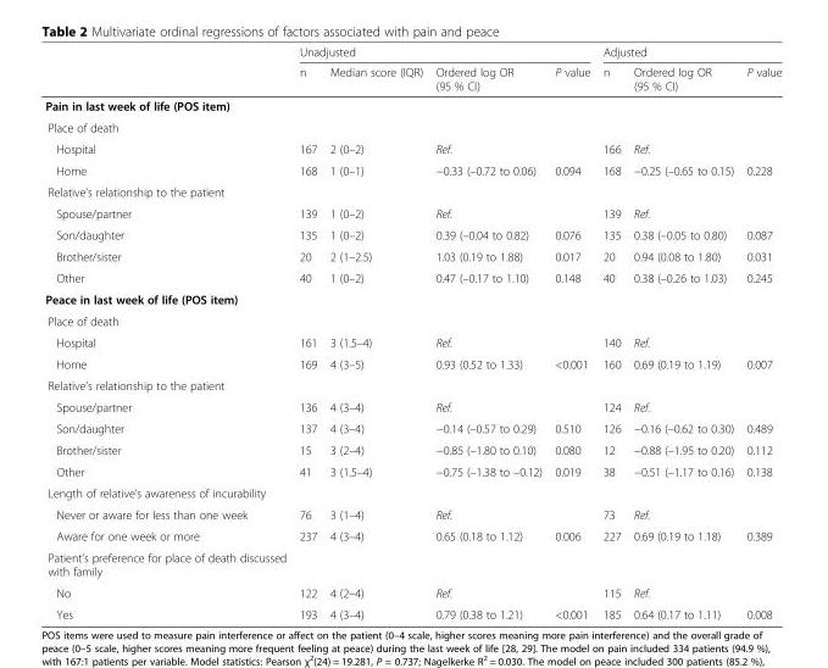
<table><thead><tr><td rowspan="2"></td><td colspan="4">Unadjusted</td><td colspan="3">Adjusted</td></tr><tr><td>n</td><td>Median score (IQR)</td><td>Ordered log OR (95 % CI)</td><td>P value</td><td>n</td><td>Ordered log OR (95 % CI)</td><td>P value</td></tr></thead><tbody><tr><td colspan="8">Pain in last week of life (POS item)</td></tr><tr><td colspan="8">Place of death</td></tr><tr><td>Hospital</td><td>167</td><td>2 (0–2)</td><td>Ref.</td><td></td><td>166</td><td>Ref.</td><td></td></tr><tr><td>Home</td><td>168</td><td>1 (0–1)</td><td>−0.33 (–0.72 to 0.06)</td><td>0.094</td><td>168</td><td>−0.25 (–0.65 to 0.15)</td><td>0.228</td></tr><tr><td colspan="8">Relative’s relationship to the patient</td></tr><tr><td>Spouse/partner</td><td>139</td><td>1 (0–2)</td><td>Ref.</td><td></td><td>139</td><td>Ref.</td><td></td></tr><tr><td>Son/daughter</td><td>135</td><td>1 (0–2)</td><td>0.39 (–0.04 to 0.82)</td><td>0.076</td><td>135</td><td>0.38 (–0.05 to 0.80)</td><td>0.087</td></tr><tr><td>Brother/sister</td><td>20</td><td>2 (1–2.5)</td><td>1.03 (0.19 to 1.88)</td><td>0.017</td><td>20</td><td>0.94 (0.08 to 1.80)</td><td>0.031</td></tr><tr><td>Other</td><td>40</td><td>1 (0–2)</td><td>0.47 (–0.17 to 1.10)</td><td>0.148</td><td>40</td><td>0.38 (–0.26 to 1.03)</td><td>0.245</td></tr><tr><td colspan="8">Peace in last week of life (POS item)</td></tr><tr><td colspan="8">Place of death</td></tr><tr><td>Hospital</td><td>161</td><td>3 (1.5–4)</td><td>Ref.</td><td></td><td>140</td><td>Ref.</td><td></td></tr><tr><td>Home</td><td>169</td><td>4 (3–5)</td><td>0.93 (0.52 to 1.33)</td><td>&lt;0.001</td><td>160</td><td>0.69 (0.19 to 1.19)</td><td>0.007</td></tr><tr><td colspan="8">Relative’s relationship to the patient</td></tr><tr><td>Spouse/partner</td><td>136</td><td>4 (3–4)</td><td>Ref.</td><td></td><td>124</td><td>Ref.</td><td></td></tr><tr><td>Son/daughter</td><td>137</td><td>4 (3–4)</td><td>−0.14 (–0.57 to 0.29)</td><td>0.510</td><td>126</td><td>−0.16 (–0.62 to 0.30)</td><td>0.489</td></tr><tr><td>Brother/sister</td><td>15</td><td>3 (2–4)</td><td>−0.85 (–1.80 to 0.10)</td><td>0.080</td><td>12</td><td>−0.88 (–1.95 to 0.20)</td><td>0.112</td></tr><tr><td>Other</td><td>41</td><td>3 (1.5–4)</td><td>−0.75 (–1.38 to –0.12)</td><td>0.019</td><td>38</td><td>−0.51 (–1.17 to 0.16)</td><td>0.138</td></tr><tr><td colspan="8">Length of relative’s awareness of incurability</td></tr><tr><td>Never or aware for less than one week</td><td>76</td><td>3 (1–4)</td><td>Ref.</td><td></td><td>73</td><td>Ref.</td><td></td></tr><tr><td>Aware for one week or more</td><td>237</td><td>4 (3–4)</td><td>0.65 (0.18 to 1.12)</td><td>0.006</td><td>227</td><td>0.69 (0.19 to 1.18)</td><td>0.389</td></tr><tr><td colspan="8">Patient’s preference for place of death discussed with family</td></tr><tr><td>No</td><td>122</td><td>4 (2–4)</td><td>Ref.</td><td></td><td>115</td><td>Ref.</td><td></td></tr><tr><td>Yes</td><td>193</td><td>4 (3–4)</td><td>0.79 (0.38 to 1.21)</td><td>&lt;0.001</td><td>185</td><td>0.64 (0.17 to 1.11)</td><td>0.008</td></tr></tbody></table>